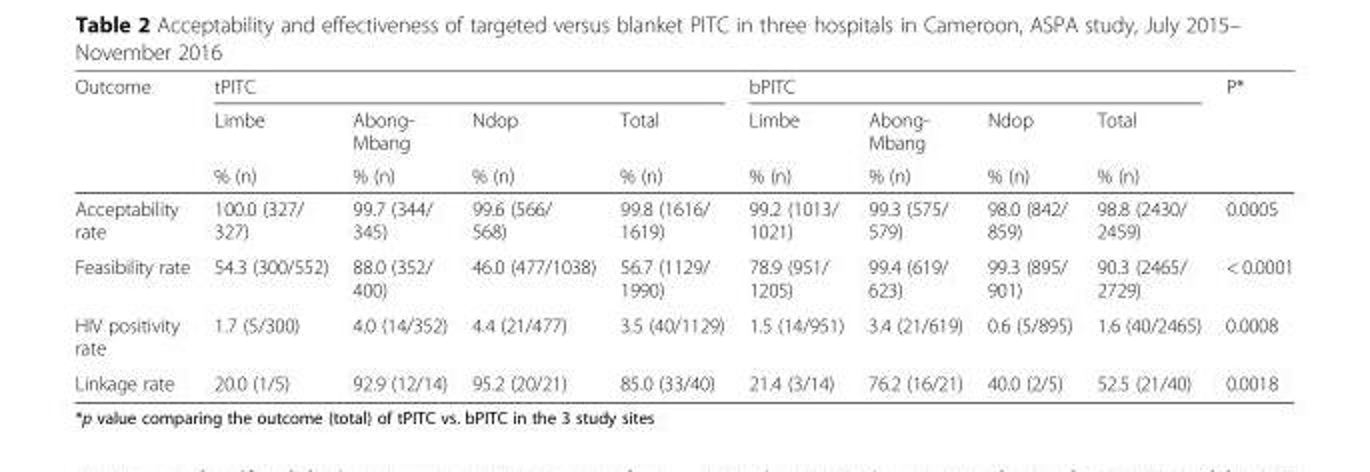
<table><thead><tr><td rowspan="3">Outcome</td><td colspan="4">tPITC</td><td colspan="4">bPITC</td><td rowspan="3">P*</td></tr><tr><td rowspan="2">Limbe % (n)</td><td rowspan="2">Abong- Mbang % (n)</td><td rowspan="2">Ndop % (n)</td><td rowspan="2">Total % (n)</td><td rowspan="2">Limbe % (n)</td><td rowspan="2">Abong- Mbang % (n)</td><td rowspan="2">Ndop % (n)</td><td rowspan="2">Total % (n)</td></tr><tr></tr></thead><tbody><tr><td>Acceptability rate</td><td>100.0 (327/ 327)</td><td>99.7 (344/ 345)</td><td>99.6 (566/ 568)</td><td>99.8 (1616/ 1619)</td><td>99.2 (1013/ 1021)</td><td>99.3 (575/ 579)</td><td>98.0 (842/ 859)</td><td>98.8 (2430/ 2459)</td><td>0.0005</td></tr><tr><td>Feasibility rate</td><td>54.3 (300/552)</td><td>88.0 (352/ 400)</td><td>46.0 (477/1038)</td><td>56.7 (1129/ 1990)</td><td>78.9 (951/ 1205)</td><td>99.4 (619/ 623)</td><td>99.3 (895/ 901)</td><td>90.3 (2465/ 2729)</td><td>&lt; 0.0001</td></tr><tr><td>HIV positivity rate</td><td>1.7 (5/300)</td><td>4.0 (14/352)</td><td>4.4 (21/477)</td><td>3.5 (40/1129)</td><td>1.5 (14/951)</td><td>3.4 (21/619)</td><td>0.6 (5/895)</td><td>1.6 (40/2465)</td><td>0.0008</td></tr><tr><td>Linkage rate</td><td>20.0 (1/5)</td><td>92.9 (12/14)</td><td>95.2 (20/21)</td><td>85.0 (33/40)</td><td>21.4 (3/14)</td><td>76.2 (16/21)</td><td>40.0 (2/5)</td><td>52.5 (21/40)</td><td>0.0018</td></tr></tbody></table>